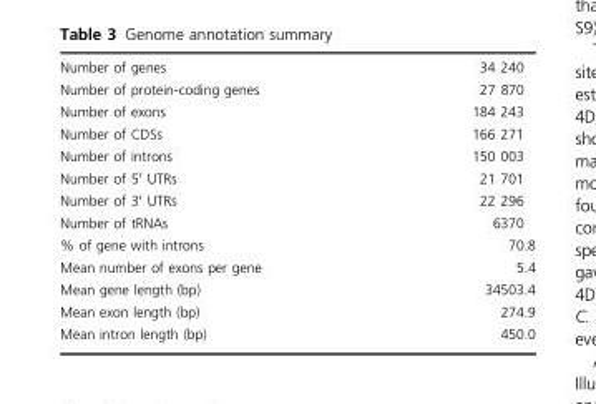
<table><tbody><tr><td>Number of genes</td><td>34 240</td></tr><tr><td>Number of protein-coding genes</td><td>27 870</td></tr><tr><td>Number of exons</td><td>184 243</td></tr><tr><td>Number of CDSs</td><td>166 271</td></tr><tr><td>Number of introns</td><td>150 003</td></tr><tr><td>Number of 5′ UTRs</td><td>21 701</td></tr><tr><td>Number of 3′ UTRs</td><td>22 296</td></tr><tr><td>Number of tRNAs</td><td>6370</td></tr><tr><td>% of gene with introns</td><td>70.8</td></tr><tr><td>Mean number of exons per gene</td><td>5.4</td></tr><tr><td>Mean gene length (bp)</td><td>34503.4</td></tr><tr><td>Mean exon length (bp)</td><td>274.9</td></tr><tr><td>Mean intron length (bp)</td><td>450.0</td></tr></tbody></table>